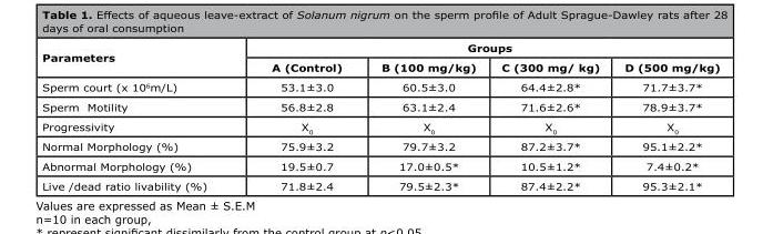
<table><thead><tr><td rowspan="2">Parameters</td><td colspan="4">Groups</td></tr><tr><td>A (Control)</td><td>B (100 mg/kg)</td><td>C (300 mg/ kg)</td><td>D (500 mg/kg)</td></tr></thead><tbody><tr><td>Sperm court (x 10<sup>6</sup>m/L)</td><td>53.1±3.0</td><td>60.5±3.0</td><td>64.4±2.8*</td><td>71.7±3.7*</td></tr><tr><td>Sperm Motility</td><td>56.8±2.8</td><td>63.1±2.4</td><td>71.6±2.6*</td><td>78.9±3.7*</td></tr><tr><td>Progressivity</td><td>X<sub>0</sub></td><td>X<sub>0</sub></td><td>X<sub>0</sub></td><td>X<sub>0</sub></td></tr><tr><td>Normal Morphology (%)</td><td>75.9±3.2</td><td>79.7±3.2</td><td>87.2±3.7*</td><td>95.1±2.2*</td></tr><tr><td>Abnormal Morphology (%)</td><td>19.5±0.7</td><td>17.0±0.5*</td><td>10.5±1.2*</td><td>7.4±0.2*</td></tr><tr><td>Live /dead ratio livability (%)</td><td>71.8±2.4</td><td>79.5±2.3*</td><td>87.4±2.2*</td><td>95.3±2.1*</td></tr></tbody></table>